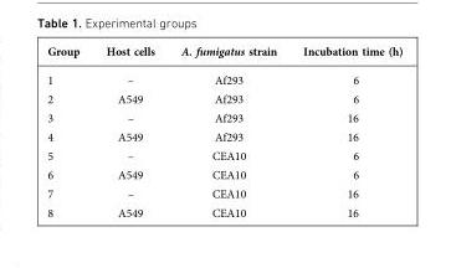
<table><thead><tr><td>Group</td><td>Host cells</td><td>A. fumigatus strain</td><td>Incubation time (h)</td></tr></thead><tbody><tr><td>1</td><td>–</td><td>Af293</td><td>6</td></tr><tr><td>2</td><td>A549</td><td>Af293</td><td>6</td></tr><tr><td>3</td><td>–</td><td>Af293</td><td>16</td></tr><tr><td>4</td><td>A549</td><td>Af293</td><td>16</td></tr><tr><td>5</td><td>–</td><td>CEA10</td><td>6</td></tr><tr><td>6</td><td>A549</td><td>CEA10</td><td>6</td></tr><tr><td>7</td><td>–</td><td>CEA10</td><td>16</td></tr><tr><td>8</td><td>A549</td><td>CEA10</td><td>16</td></tr></tbody></table>